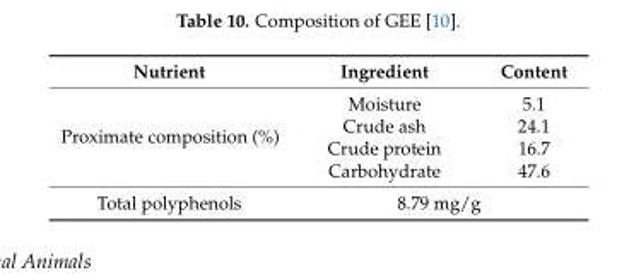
<table><thead><tr><td>Nutrient</td><td>Ingredient</td><td>Content</td></tr></thead><tbody><tr><td rowspan="4">Proximate composition (%)</td><td>Moisture</td><td>5.1</td></tr><tr><td>Crude ash</td><td>24.1</td></tr><tr><td>Crude protein</td><td>16.7</td></tr><tr><td>Carbohydrate</td><td>47.6</td></tr><tr><td>Total polyphenols</td><td colspan="2">8.79 mg/g</td></tr></tbody></table>